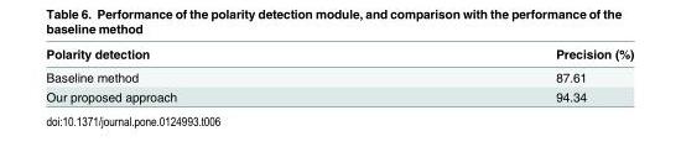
<table><thead><tr><td>Polarity detection</td><td>Precision (%)</td></tr></thead><tbody><tr><td>Baseline method</td><td>87.61</td></tr><tr><td>Our proposed approach</td><td>94.34</td></tr></tbody></table>